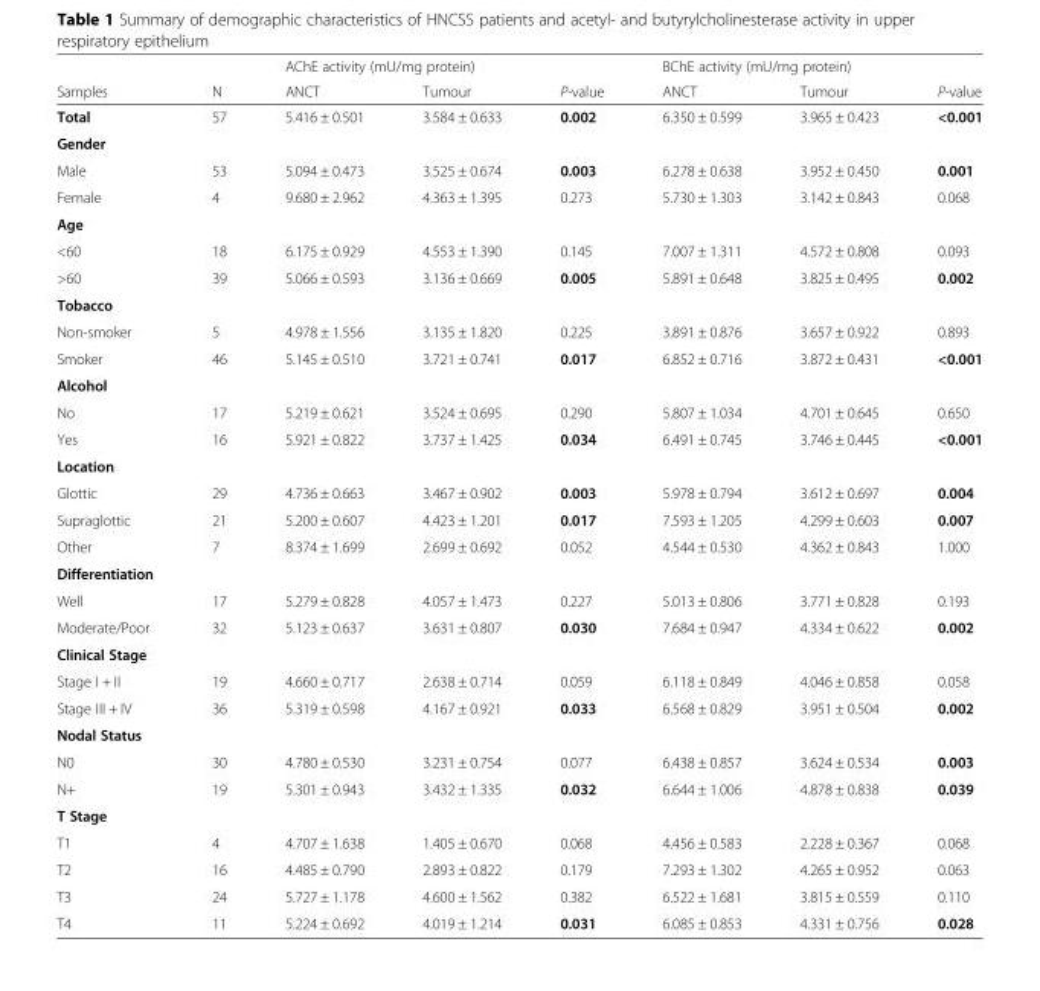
<table><thead><tr><td rowspan="2">Samples</td><td rowspan="2">N</td><td colspan="3">AChE activity (mU/mg protein)</td><td colspan="3">BChE activity (mU/mg protein)</td></tr><tr><td>ANCT</td><td>Tumour</td><td>P-value</td><td>ANCT</td><td>Tumour</td><td>P-value</td></tr></thead><tbody><tr><td>Total</td><td>57</td><td>5.416 ± 0.501</td><td>3.584 ± 0.633</td><td>0.002</td><td>6.350 ± 0.599</td><td>3.965 ± 0.423</td><td>&lt;0.001</td></tr><tr><td colspan="8">Gender</td></tr><tr><td>Male</td><td>53</td><td>5.094 ± 0.473</td><td>3.525 ± 0.674</td><td>0.003</td><td>6.278 ± 0.638</td><td>3.952 ± 0.450</td><td>0.001</td></tr><tr><td>Female</td><td>4</td><td>9.680 ± 2.962</td><td>4.363 ± 1.395</td><td>0.273</td><td>5.730 ± 1.303</td><td>3.142 ± 0.843</td><td>0.068</td></tr><tr><td colspan="8">Age</td></tr><tr><td>&lt;60</td><td>18</td><td>6.175 ± 0.929</td><td>4.553 ± 1.390</td><td>0.145</td><td>7.007 ± 1.311</td><td>4.572 ± 0.808</td><td>0.093</td></tr><tr><td>&gt;60</td><td>39</td><td>5.066 ± 0.593</td><td>3.136 ± 0.669</td><td>0.005</td><td>5.891 ± 0.648</td><td>3.825 ± 0.495</td><td>0.002</td></tr><tr><td colspan="8">Tobacco</td></tr><tr><td>Non-smoker</td><td>5</td><td>4.978 ± 1.556</td><td>3.135 ± 1.820</td><td>0.225</td><td>3.891 ± 0.876</td><td>3.657 ± 0.922</td><td>0.893</td></tr><tr><td>Smoker</td><td>46</td><td>5.145 ± 0.510</td><td>3.721 ± 0.741</td><td>0.017</td><td>6.852 ± 0.716</td><td>3.872 ± 0.431</td><td>&lt;0.001</td></tr><tr><td colspan="8">Alcohol</td></tr><tr><td>No</td><td>17</td><td>5.219 ± 0.621</td><td>3.524 ± 0.695</td><td>0.290</td><td>5.807 ± 1.034</td><td>4.701 ± 0.645</td><td>0.650</td></tr><tr><td>Yes</td><td>16</td><td>5.921 ± 0.822</td><td>3.737 ± 1.425</td><td>0.034</td><td>6.491 ± 0.745</td><td>3.746 ± 0.445</td><td>&lt;0.001</td></tr><tr><td colspan="8">Location</td></tr><tr><td>Glottic</td><td>29</td><td>4.736 ± 0.663</td><td>3.467 ± 0.902</td><td>0.003</td><td>5.978 ± 0.794</td><td>3.612 ± 0.697</td><td>0.004</td></tr><tr><td>Supraglottic</td><td>21</td><td>5.200 ± 0.607</td><td>4.423 ± 1.201</td><td>0.017</td><td>7.593 ± 1.205</td><td>4.299 ± 0.603</td><td>0.007</td></tr><tr><td>Other</td><td>7</td><td>8.374 ± 1.699</td><td>2.699 ± 0.692</td><td>0.052</td><td>4.544 ± 0.530</td><td>4.362 ± 0.843</td><td>1.000</td></tr><tr><td colspan="8">Differentiation</td></tr><tr><td>Well</td><td>17</td><td>5.279 ± 0.828</td><td>4.057 ± 1.473</td><td>0.227</td><td>5.013 ± 0.806</td><td>3.771 ± 0.828</td><td>0.193</td></tr><tr><td>Moderate/Poor</td><td>32</td><td>5.123 ± 0.637</td><td>3.631 ± 0.807</td><td>0.030</td><td>7.684 ± 0.947</td><td>4.334 ± 0.622</td><td>0.002</td></tr><tr><td colspan="8">Clinical Stage</td></tr><tr><td>Stage I + II</td><td>19</td><td>4.660 ± 0.717</td><td>2.638 ± 0.714</td><td>0.059</td><td>6.118 ± 0.849</td><td>4.046 ± 0.858</td><td>0.058</td></tr><tr><td>Stage III + IV</td><td>36</td><td>5.319 ± 0.598</td><td>4.167 ± 0.921</td><td>0.033</td><td>6.568 ± 0.829</td><td>3.951 ± 0.504</td><td>0.002</td></tr><tr><td colspan="8">Nodal Status</td></tr><tr><td>N0</td><td>30</td><td>4.780 ± 0.530</td><td>3.231 ± 0.754</td><td>0.077</td><td>6.438 ± 0.857</td><td>3.624 ± 0.534</td><td>0.003</td></tr><tr><td>N+</td><td>19</td><td>5.301 ± 0.943</td><td>3.432 ± 1.335</td><td>0.032</td><td>6.644 ± 1.006</td><td>4.878 ± 0.838</td><td>0.039</td></tr><tr><td colspan="8">T Stage</td></tr><tr><td>T1</td><td>4</td><td>4.707 ± 1.638</td><td>1.405 ± 0.670</td><td>0.068</td><td>4.456 ± 0.583</td><td>2.228 ± 0.367</td><td>0.068</td></tr><tr><td>T2</td><td>16</td><td>4.485 ± 0.790</td><td>2.893 ± 0.822</td><td>0.179</td><td>7.293 ± 1.302</td><td>4.265 ± 0.952</td><td>0.063</td></tr><tr><td>T3</td><td>24</td><td>5.727 ± 1.178</td><td>4.600 ± 1.562</td><td>0.382</td><td>6.522 ± 1.681</td><td>3.815 ± 0.559</td><td>0.110</td></tr><tr><td>T4</td><td>11</td><td>5.224 ± 0.692</td><td>4.019 ± 1.214</td><td>0.031</td><td>6.085 ± 0.853</td><td>4.331 ± 0.756</td><td>0.028</td></tr></tbody></table>